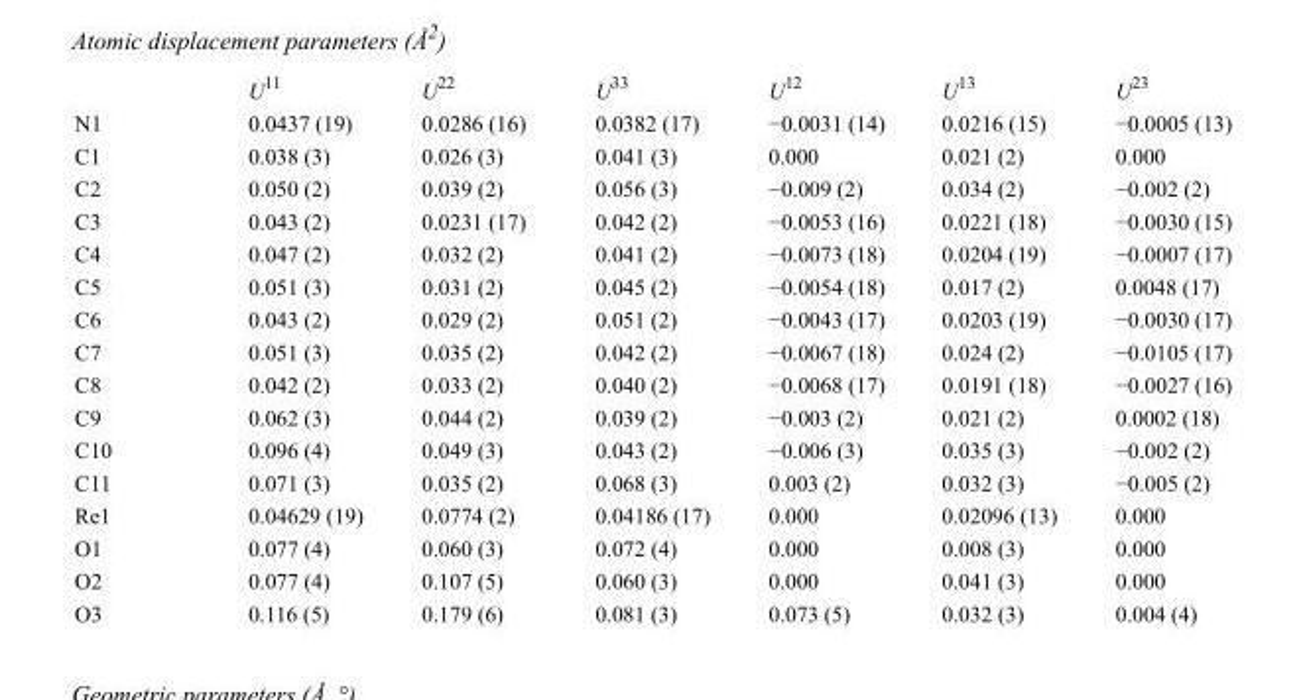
<table><thead><tr><td></td><td>U<sup>11</sup></td><td>U<sup>22</sup></td><td>U<sup>33</sup></td><td>U<sup>12</sup></td><td>U<sup>13</sup></td><td>U<sup>23</sup></td></tr></thead><tbody><tr><td>N1</td><td>0.0437 (19)</td><td>0.0286 (16)</td><td>0.0382 (17)</td><td>−0.0031 (14)</td><td>0.0216 (15)</td><td>−0.0005 (13)</td></tr><tr><td>C1</td><td>0.038 (3)</td><td>0.026 (3)</td><td>0.041 (3)</td><td>0.000</td><td>0.021 (2)</td><td>0.000</td></tr><tr><td>C2</td><td>0.050 (2)</td><td>0.039 (2)</td><td>0.056 (3)</td><td>−0.009 (2)</td><td>0.034 (2)</td><td>−0.002 (2)</td></tr><tr><td>C3</td><td>0.043 (2)</td><td>0.0231 (17)</td><td>0.042 (2)</td><td>−0.0053 (16)</td><td>0.0221 (18)</td><td>−0.0030 (15)</td></tr><tr><td>C4</td><td>0.047 (2)</td><td>0.032 (2)</td><td>0.041 (2)</td><td>−0.0073 (18)</td><td>0.0204 (19)</td><td>−0.0007 (17)</td></tr><tr><td>C5</td><td>0.051 (3)</td><td>0.031 (2)</td><td>0.045 (2)</td><td>−0.0054 (18)</td><td>0.017 (2)</td><td>0.0048 (17)</td></tr><tr><td>C6</td><td>0.043 (2)</td><td>0.029 (2)</td><td>0.051 (2)</td><td>−0.0043 (17)</td><td>0.0203 (19)</td><td>−0.0030 (17)</td></tr><tr><td>C7</td><td>0.051 (3)</td><td>0.035 (2)</td><td>0.042 (2)</td><td>−0.0067 (18)</td><td>0.024 (2)</td><td>−0.0105 (17)</td></tr><tr><td>C8</td><td>0.042 (2)</td><td>0.033 (2)</td><td>0.040 (2)</td><td>−0.0068 (17)</td><td>0.0191 (18)</td><td>−0.0027 (16)</td></tr><tr><td>C9</td><td>0.062 (3)</td><td>0.044 (2)</td><td>0.039 (2)</td><td>−0.003 (2)</td><td>0.021 (2)</td><td>0.0002 (18)</td></tr><tr><td>C10</td><td>0.096 (4)</td><td>0.049 (3)</td><td>0.043 (2)</td><td>−0.006 (3)</td><td>0.035 (3)</td><td>−0.002 (2)</td></tr><tr><td>C11</td><td>0.071 (3)</td><td>0.035 (2)</td><td>0.068 (3)</td><td>0.003 (2)</td><td>0.032 (3)</td><td>−0.005 (2)</td></tr><tr><td>Re1</td><td>0.04629 (19)</td><td>0.0774 (2)</td><td>0.04186 (17)</td><td>0.000</td><td>0.02096 (13)</td><td>0.000</td></tr><tr><td>O1</td><td>0.077 (4)</td><td>0.060 (3)</td><td>0.072 (4)</td><td>0.000</td><td>0.008 (3)</td><td>0.000</td></tr><tr><td>O2</td><td>0.077 (4)</td><td>0.107 (5)</td><td>0.060 (3)</td><td>0.000</td><td>0.041 (3)</td><td>0.000</td></tr><tr><td>O3</td><td>0.116 (5)</td><td>0.179 (6)</td><td>0.081 (3)</td><td>0.073 (5)</td><td>0.032 (3)</td><td>0.004 (4)</td></tr></tbody></table>